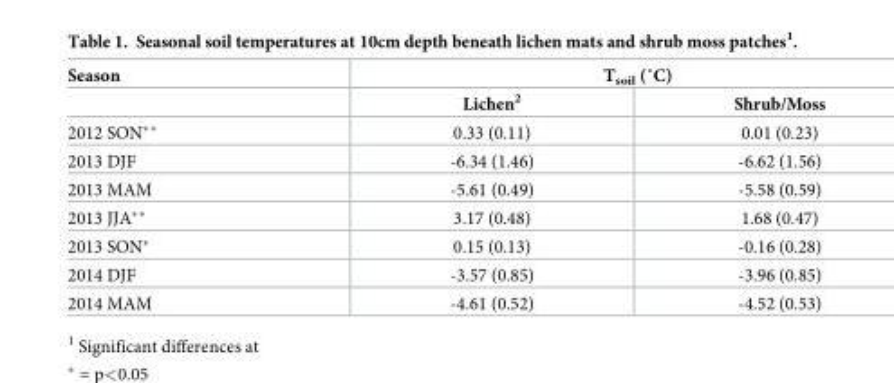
<table><thead><tr><td rowspan="2">Season</td><td colspan="2">Tsoil (˚C)</td></tr><tr><td>Lichen<sup>2</sup></td><td>Shrub/Moss</td></tr></thead><tbody><tr><td>2012 SON**</td><td>0.33 (0.11)</td><td>0.01 (0.23)</td></tr><tr><td>2013 DJF</td><td>-6.34 (1.46)</td><td>-6.62 (1.56)</td></tr><tr><td>2013 MAM</td><td>-5.61 (0.49)</td><td>-5.58 (0.59)</td></tr><tr><td>2013 JJA**</td><td>3.17 (0.48)</td><td>1.68 (0.47)</td></tr><tr><td>2013 SON*</td><td>0.15 (0.13)</td><td>-0.16 (0.28)</td></tr><tr><td>2014 DJF</td><td>-3.57 (0.85)</td><td>-3.96 (0.85)</td></tr><tr><td>2014 MAM</td><td>-4.61 (0.52)</td><td>-4.52 (0.53)</td></tr></tbody></table>